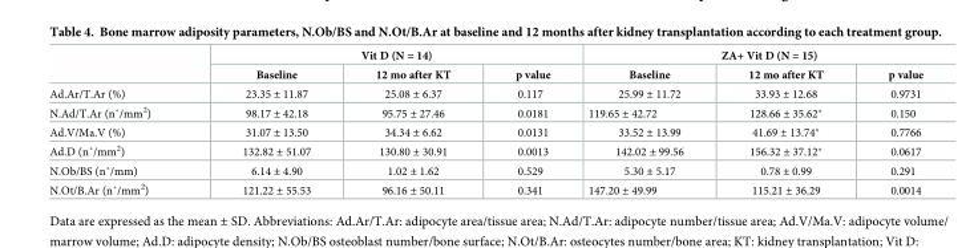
<table><thead><tr><td rowspan="2"></td><td colspan="3">Vit D (N = 14)</td><td colspan="3">ZA+ Vit D (N = 15)</td></tr><tr><td>Baseline</td><td>12 mo after KT</td><td>p value</td><td>Baseline</td><td>12 mo after KT</td><td>p value</td></tr></thead><tbody><tr><td>Ad.Ar/T.Ar (%)</td><td>23.35 ± 11.87</td><td>25.08 ± 6.37</td><td>0.117</td><td>25.99 ± 11.72</td><td>33.93 ± 12.68</td><td>0.9731</td></tr><tr><td>N.Ad/T.Ar (n˚/mm2)</td><td>98.17 ± 42.18</td><td>95.75 ± 27.46</td><td>0.0181</td><td>119.65 ± 42.72</td><td>128.66 ± 35.62*</td><td>0.150</td></tr><tr><td>Ad.V/Ma.V (%)</td><td>31.07 ± 13.50</td><td>34.34 ± 6.62</td><td>0.0131</td><td>33.52 ± 13.99</td><td>41.69 ± 13.74*</td><td>0.7766</td></tr><tr><td>Ad.D (n˚/mm2)</td><td>132.82 ± 51.07</td><td>130.80 ± 30.91</td><td>0.0013</td><td>142.02 ± 99.56</td><td>156.32 ± 37.12*</td><td>0.0617</td></tr><tr><td>N.Ob/BS (n˚/mm)</td><td>6.14 ± 4.90</td><td>1.02 ± 1.62</td><td>0.529</td><td>5.30 ± 5.17</td><td>0.78 ± 0.99</td><td>0.291</td></tr><tr><td>N.Ot/B.Ar (n˚/mm2)</td><td>121.22 ± 55.53</td><td>96.16 ± 50.11</td><td>0.341</td><td>147.20 ± 49.99</td><td>115.21 ± 36.29</td><td>0.0014</td></tr></tbody></table>